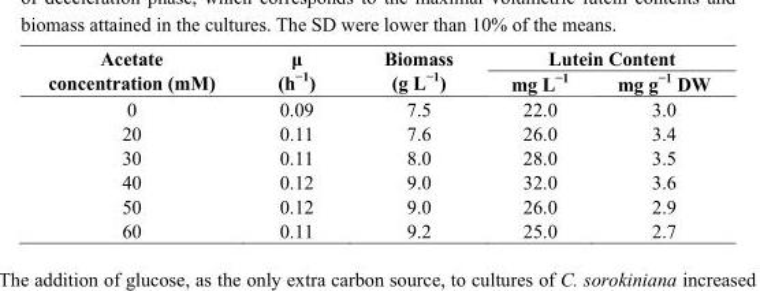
<table><thead><tr><td rowspan="2">Acetate concentration (mM)</td><td rowspan="2">μ (h<sup>−1</sup>)</td><td rowspan="2">Biomass (g L<sup>−1</sup>)</td><td colspan="2">Lutein Content</td></tr><tr><td>mg L<sup>−1</sup></td><td>mg g<sup>−1</sup> DW</td></tr></thead><tbody><tr><td>0</td><td>0.09</td><td>7.5</td><td>22.0</td><td>3.0</td></tr><tr><td>20</td><td>0.11</td><td>7.6</td><td>26.0</td><td>3.4</td></tr><tr><td>30</td><td>0.11</td><td>8.0</td><td>28.0</td><td>3.5</td></tr><tr><td>40</td><td>0.12</td><td>9.0</td><td>32.0</td><td>3.6</td></tr><tr><td>50</td><td>0.12</td><td>9.0</td><td>26.0</td><td>2.9</td></tr><tr><td>60</td><td>0.11</td><td>9.2</td><td>25.0</td><td>2.7</td></tr></tbody></table>